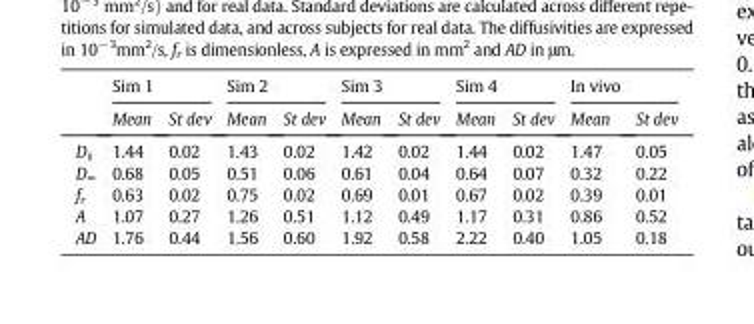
<table><thead><tr><td rowspan="2"></td><td rowspan="2">Sim 1 Mean</td><td rowspan="2">St dev</td><td rowspan="2">Sim 2 Mean</td><td rowspan="2">St dev</td><td rowspan="2">Sim 3 Mean</td><td rowspan="2">St dev</td><td rowspan="2">Sim 4 Mean</td><td rowspan="2">St dev</td><td rowspan="2">In vivo Mean</td><td rowspan="2">St dev</td></tr><tr></tr></thead><tbody><tr><td>D<sub>∥</sub></td><td>1.44</td><td>0.02</td><td>1.43</td><td>0.02</td><td>1.42</td><td>0.02</td><td>1.44</td><td>0.02</td><td>1.47</td><td>0.05</td></tr><tr><td>D<sub>∞</sub></td><td>0.68</td><td>0.05</td><td>0.51</td><td>0.06</td><td>0.61</td><td>0.04</td><td>0.64</td><td>0.07</td><td>0.32</td><td>0.22</td></tr><tr><td>f<sub>r</sub></td><td>0.63</td><td>0.02</td><td>0.75</td><td>0.02</td><td>0.69</td><td>0.01</td><td>0.67</td><td>0.02</td><td>0.39</td><td>0.01</td></tr><tr><td>A</td><td>1.07</td><td>0.27</td><td>1.26</td><td>0.51</td><td>1.12</td><td>0.49</td><td>1.17</td><td>0.31</td><td>0.86</td><td>0.52</td></tr><tr><td>AD</td><td>1.76</td><td>0.44</td><td>1.56</td><td>0.60</td><td>1.92</td><td>0.58</td><td>2.22</td><td>0.40</td><td>1.05</td><td>0.18</td></tr></tbody></table>